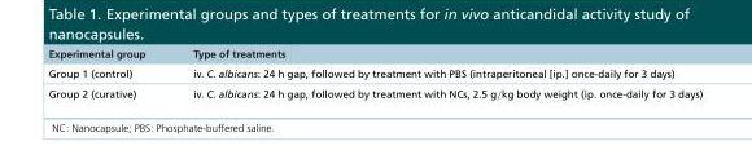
<table><thead><tr><td>Experimental group</td><td>Type of treatments</td></tr></thead><tbody><tr><td>Group 1 (control)</td><td>iv. C. albicans: 24 h gap, followed by treatment with PBS (intraperitoneal [ip.] once-daily for 3 days)</td></tr><tr><td>Group 2 (curative)</td><td>iv. C. albicans: 24 h gap, followed by treatment with NCs, 2.5 g/kg body weight (ip. once-daily for 3 days)</td></tr></tbody></table>